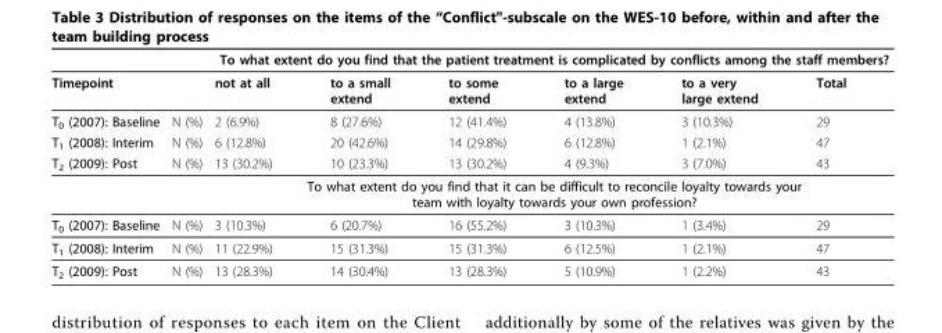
<table><thead><tr><td rowspan="2">Timepoint</td><td rowspan="2"></td><td colspan="6">To what extent do you find that the patient treatment is complicated by conflicts among the staff members?</td></tr><tr><td>not at all</td><td>to a small extend</td><td>to some extend</td><td>to a large extend</td><td>to a very large extend</td><td>Total</td></tr></thead><tbody><tr><td>T<sub>0</sub> (2007): Baseline</td><td>N (%)</td><td>2 (6.9%)</td><td>8 (27.6%)</td><td>12 (41.4%)</td><td>4 (13.8%)</td><td>3 (10.3%)</td><td>29</td></tr><tr><td>T<sub>1</sub> (2008): Interim</td><td>N (%)</td><td>6 (12.8%)</td><td>20 (42.6%)</td><td>14 (29.8%)</td><td>6 (12.8%)</td><td>1 (2.1%)</td><td>47</td></tr><tr><td rowspan="2">T<sub>2</sub> (2009): Post</td><td>N (%)</td><td>13 (30.2%)</td><td>10 (23.3%)</td><td>13 (30.2%)</td><td>4 (9.3%)</td><td>3 (7.0%)</td><td>43</td></tr><tr><td></td><td colspan="6">To what extent do you find that it can be difficult to reconcile loyalty towards your team with loyalty towards your own profession?</td></tr><tr><td>T<sub>0</sub> (2007): Baseline</td><td>N (%)</td><td>3 (10.3%)</td><td>6 (20.7%)</td><td>16 (55.2%)</td><td>3 (10.3%)</td><td>1 (3.4%)</td><td>29</td></tr><tr><td>T<sub>1</sub> (2008): Interim</td><td>N (%)</td><td>11 (22.9%)</td><td>15 (31.3%)</td><td>15 (31.3%)</td><td>6 (12.5%)</td><td>1 (2.1%)</td><td>47</td></tr><tr><td>T<sub>2</sub> (2009): Post</td><td>N (%)</td><td>13 (28.3%)</td><td>14 (30.4%)</td><td>13 (28.3%)</td><td>5 (10.9%)</td><td>1 (2.2%)</td><td>43</td></tr></tbody></table>